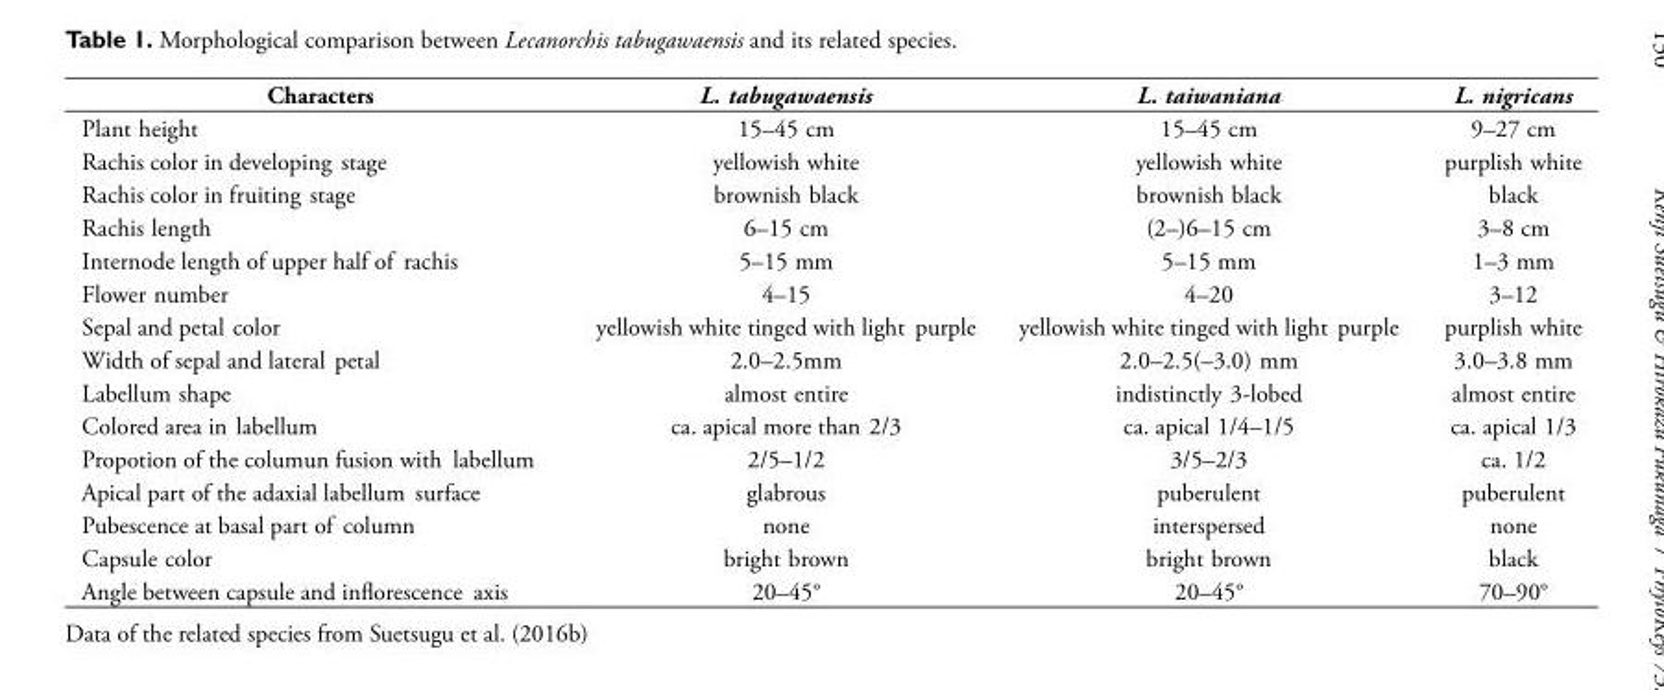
<table><thead><tr><td>Characters</td><td>L. tabugawaensis</td><td>L. taiwaniana</td><td>L. nigricans</td></tr></thead><tbody><tr><td>Plant height</td><td>15–45 cm</td><td>15–45 cm</td><td>9–27 cm</td></tr><tr><td>Rachis color in developing stage</td><td>yellowish white</td><td>yellowish white</td><td>purplish white</td></tr><tr><td>Rachis color in fruiting stage</td><td>brownish black</td><td>brownish black</td><td>black</td></tr><tr><td>Rachis length</td><td>6–15 cm</td><td>(2–)6–15 cm</td><td>3–8 cm</td></tr><tr><td>Internode length of upper half of rachis</td><td>5–15 mm</td><td>5–15 mm</td><td>1–3 mm</td></tr><tr><td>Flower number</td><td>4–15</td><td>4–20</td><td>3–12</td></tr><tr><td>Sepal and petal color</td><td>yellowish white tinged with light purple</td><td>yellowish white tinged with light purple</td><td>purplish white</td></tr><tr><td>Width of sepal and lateral petal</td><td>2.0–2.5mm</td><td>2.0–2.5(–3.0) mm</td><td>3.0–3.8 mm</td></tr><tr><td>Labellum shape</td><td>almost entire</td><td>indistinctly 3-lobed</td><td>almost entire</td></tr><tr><td>Colored area in labellum</td><td>ca. apical more than 2/3</td><td>ca. apical 1/4–1/5</td><td>ca. apical 1/3</td></tr><tr><td>Propotion of the columun fusion with labellum</td><td>2/5–1/2</td><td>3/5–2/3</td><td>ca. 1/2</td></tr><tr><td>Apical part of the adaxial labellum surface</td><td>glabrous</td><td>puberulent</td><td>puberulent</td></tr><tr><td>Pubescence at basal part of column</td><td>none</td><td>interspersed</td><td>none</td></tr><tr><td>Capsule color</td><td>bright brown</td><td>bright brown</td><td>black</td></tr><tr><td>Angle between capsule and infl orescence axis</td><td>20–45°</td><td>20–45°</td><td>70–90°</td></tr></tbody></table>